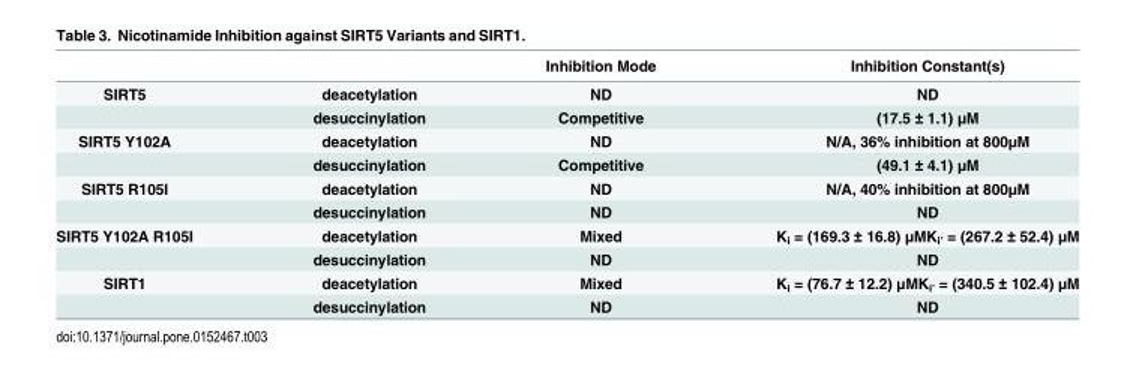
<table><thead><tr><td></td><td></td><td>Inhibition Mode</td><td>Inhibition Constant(s)</td></tr></thead><tbody><tr><td rowspan="2">SIRT5</td><td>deacetylation</td><td>ND</td><td>ND</td></tr><tr><td>desuccinylation</td><td>Competitive</td><td>(17.5 ± 1.1) μM</td></tr><tr><td rowspan="2">SIRT5 Y102A</td><td>deacetylation</td><td>ND</td><td>N/A, 36% inhibition at 800μM</td></tr><tr><td>desuccinylation</td><td>Competitive</td><td>(49.1 ± 4.1) μM</td></tr><tr><td rowspan="2">SIRT5 R105I</td><td>deacetylation</td><td>ND</td><td>N/A, 40% inhibition at 800μM</td></tr><tr><td>desuccinylation</td><td>ND</td><td>ND</td></tr><tr><td rowspan="2">SIRT5 Y102A R105I</td><td>deacetylation</td><td>Mixed</td><td>K<sub>i</sub> = (169.3 ± 16.8) μMK<sub>i’</sub> = (267.2 ± 52.4) μM</td></tr><tr><td>desuccinylation</td><td>ND</td><td>ND</td></tr><tr><td rowspan="2">SIRT1</td><td>deacetylation</td><td>Mixed</td><td>K<sub>i</sub> = (76.7 ± 12.2) μMK<sub>i’</sub> = (340.5 ± 102.4) μM</td></tr><tr><td>desuccinylation</td><td>ND</td><td>ND</td></tr></tbody></table>